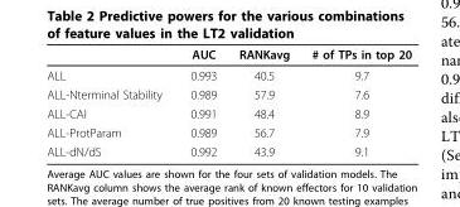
<table><thead><tr><td></td><td>AUC</td><td>RANKavg</td><td># of TPs in top 20</td></tr></thead><tbody><tr><td>ALL</td><td>0.993</td><td>40.5</td><td>9.7</td></tr><tr><td>ALL-Nterminal Stability</td><td>0.989</td><td>57.9</td><td>7.6</td></tr><tr><td>ALL-CAI</td><td>0.991</td><td>48.4</td><td>8.9</td></tr><tr><td>ALL-ProtParam</td><td>0.989</td><td>56.7</td><td>7.9</td></tr><tr><td>ALL-dN/dS</td><td>0.992</td><td>43.9</td><td>9.1</td></tr></tbody></table>